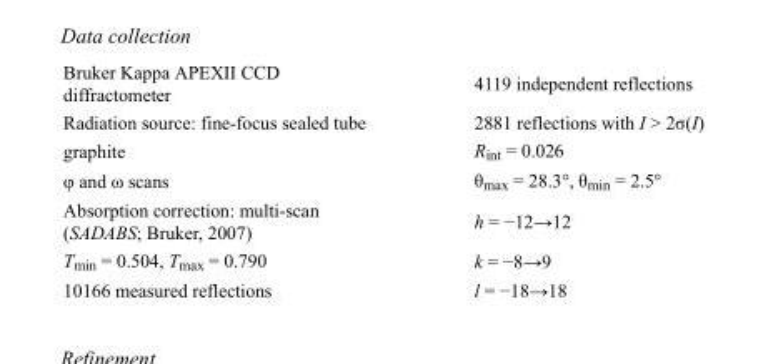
<table><tbody><tr><td>Bruker Kappa APEXII CCD diffractometer</td><td>4119 independent reflections</td></tr><tr><td>Radiation source: fine-focus sealed tube</td><td>2881 reflections with I &gt; 2σ(I)</td></tr><tr><td>graphite</td><td>R<sub>int</sub> = 0.026</td></tr><tr><td>φ and ω scans</td><td>θ<sub>max</sub> = 28.3°, θ<sub>min</sub> = 2.5°</td></tr><tr><td>Absorption correction: multi-scan (SADABS; Bruker, 2007)</td><td>h = −12→12</td></tr><tr><td>T<sub>min</sub> = 0.504, T<sub>max</sub> = 0.790</td><td>k = −8→9</td></tr><tr><td>10166 measured reflections</td><td>l = −18→18</td></tr></tbody></table>